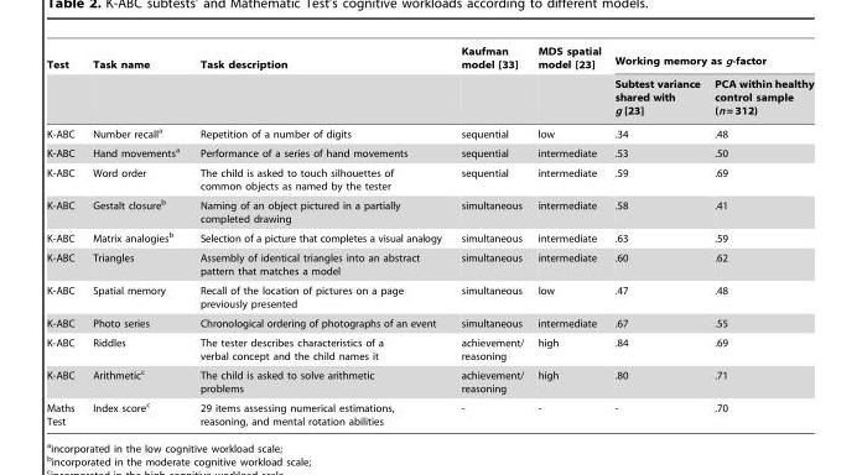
<table><thead><tr><td rowspan="2">Test</td><td rowspan="2">Task name</td><td rowspan="2">Task description</td><td rowspan="2">Kaufman model [33]</td><td rowspan="2">MDS spatial model [23]</td><td colspan="2">Working memory as g-factor</td></tr><tr><td>Subtest variance shared with g [23]</td><td>PCA within healthy control sample (n = 312)</td></tr></thead><tbody><tr><td>K-ABC</td><td>Number recall<sup>a</sup></td><td>Repetition of a number of digits</td><td>sequential</td><td>low</td><td>.34</td><td>.48</td></tr><tr><td>K-ABC</td><td>Hand movements<sup>a</sup></td><td>Performance of a series of hand movements</td><td>sequential</td><td>intermediate</td><td>.53</td><td>.50</td></tr><tr><td>K-ABC</td><td>Word order</td><td>The child is asked to touch silhouettes of common objects as named by the tester</td><td>sequential</td><td>intermediate</td><td>.59</td><td>.69</td></tr><tr><td>K-ABC</td><td>Gestalt closure<sup>b</sup></td><td>Naming of an object pictured in a partially completed drawing</td><td>simultaneous</td><td>intermediate</td><td>.58</td><td>.41</td></tr><tr><td>K-ABC</td><td>Matrix analogies<sup>b</sup></td><td>Selection of a picture that completes a visual analogy</td><td>simultaneous</td><td>intermediate</td><td>.63</td><td>.59</td></tr><tr><td>K-ABC</td><td>Triangles</td><td>Assembly of identical triangles into an abstract pattern that matches a model</td><td>simultaneous</td><td>intermediate</td><td>.60</td><td>.62</td></tr><tr><td>K-ABC</td><td>Spatial memory</td><td>Recall of the location of pictures on a page previously presented</td><td>simultaneous</td><td>low</td><td>.47</td><td>.48</td></tr><tr><td>K-ABC</td><td>Photo series</td><td>Chronological ordering of photographs of an event</td><td>simultaneous</td><td>intermediate</td><td>.67</td><td>.55</td></tr><tr><td>K-ABC</td><td>Riddles</td><td>The tester describes characteristics of a verbal concept and the child names it</td><td>achievement/ reasoning</td><td>high</td><td>.84</td><td>.69</td></tr><tr><td>K-ABC</td><td>Arithmetic<sup>c</sup></td><td>The child is asked to solve arithmetic problems</td><td>achievement/ reasoning</td><td>high</td><td>.80</td><td>.71</td></tr><tr><td>Maths Test</td><td>Index score<sup>c</sup></td><td>29 items assessing numerical estimations, reasoning, and mental rotation abilities</td><td>-</td><td>-</td><td>-</td><td>.70</td></tr></tbody></table>